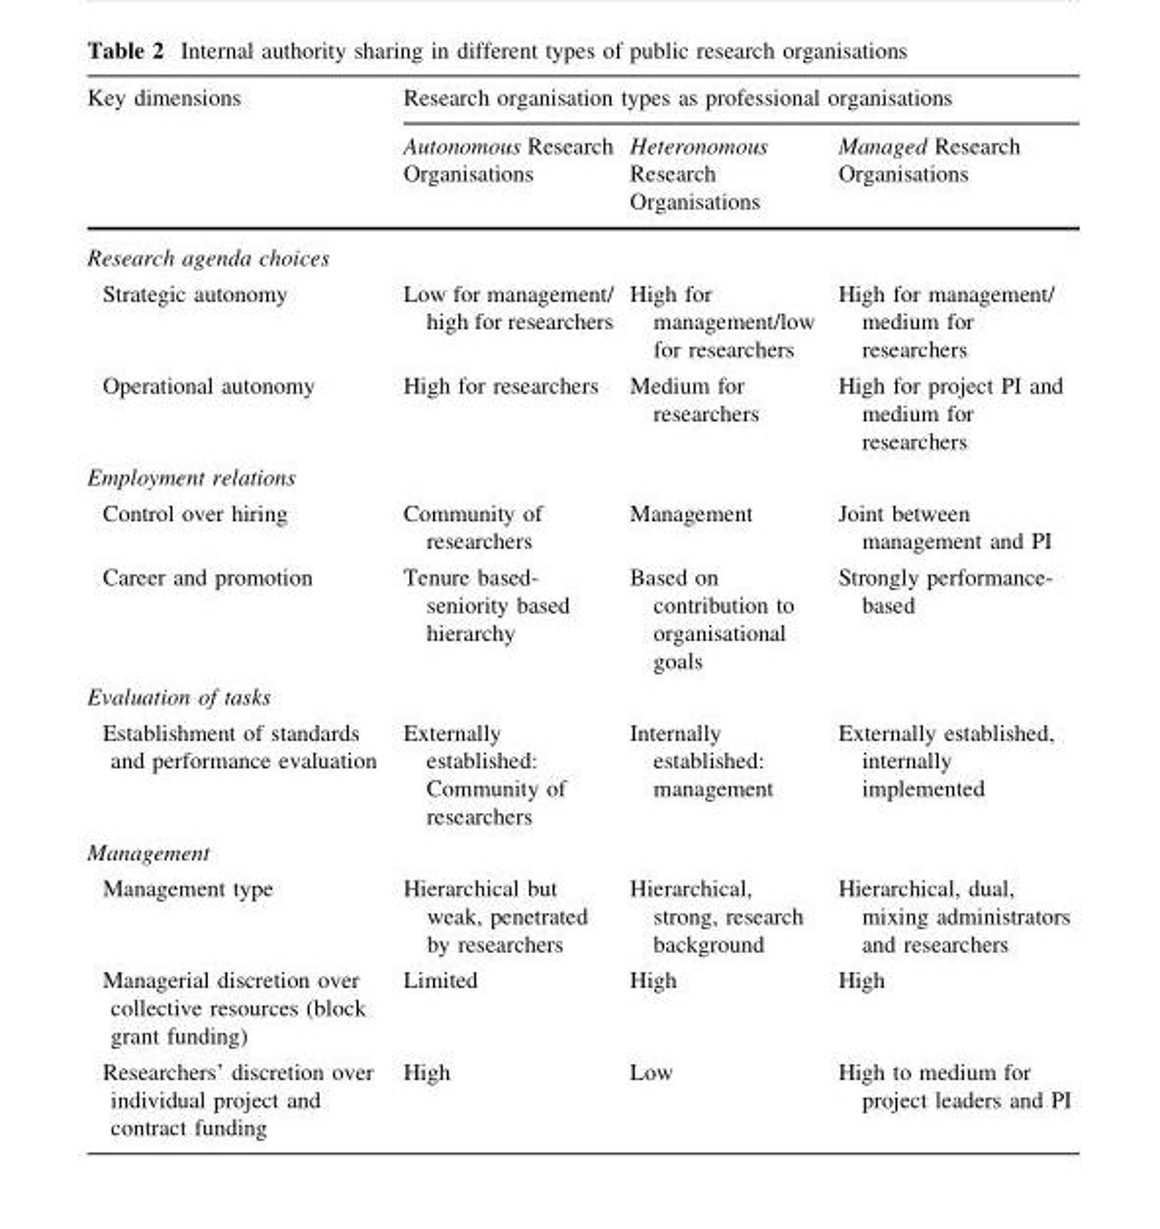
<table><thead><tr><td rowspan="2">Key dimensions</td><td colspan="3">Research organisation types as professional organisations</td></tr><tr><td>Autonomous Research Organisations</td><td>Heteronomous Research Organisations</td><td>Managed Research Organisations</td></tr></thead><tbody><tr><td colspan="4">Research agenda choices</td></tr><tr><td>Strategic autonomy</td><td>Low for management/ high for researchers</td><td>High for management/low for researchers</td><td>High for management/ medium for researchers</td></tr><tr><td>Operational autonomy</td><td>High for researchers</td><td>Medium for researchers</td><td>High for project PI and medium for researchers</td></tr><tr><td colspan="4">Employment relations</td></tr><tr><td>Control over hiring</td><td>Community of researchers</td><td>Management</td><td>Joint between management and PI</td></tr><tr><td>Career and promotion</td><td>Tenure based- seniority based hierarchy</td><td>Based on contribution to organisational goals</td><td>Strongly performance- based</td></tr><tr><td colspan="4">Evaluation of tasks</td></tr><tr><td>Establishment of standards and performance evaluation</td><td>Externally established: Community of researchers</td><td>Internally established: management</td><td>Externally established, internally implemented</td></tr><tr><td colspan="4">Management</td></tr><tr><td>Management type</td><td>Hierarchical but weak, penetrated by researchers</td><td>Hierarchical, strong, research background</td><td>Hierarchical, dual, mixing administrators and researchers</td></tr><tr><td>Managerial discretion over collective resources (block grant funding)</td><td>Limited</td><td>High</td><td>High</td></tr><tr><td>Researchers’ discretion over individual project and contract funding</td><td>High</td><td>Low</td><td>High to medium for project leaders and PI</td></tr></tbody></table>